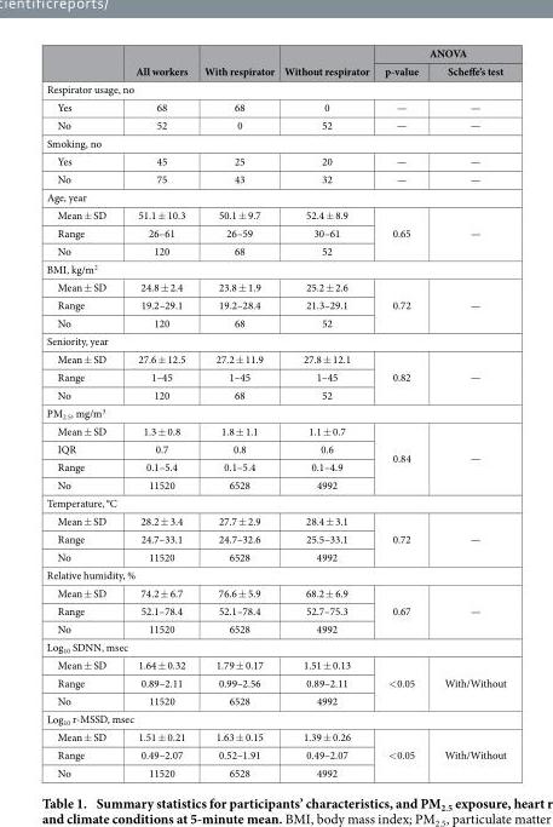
<table><thead><tr><td rowspan="2"></td><td rowspan="2">All workers</td><td rowspan="2">With respirator</td><td rowspan="2">Without respirator</td><td colspan="2">ANOVA</td></tr><tr><td>p-value</td><td>Scheffe’s test</td></tr></thead><tbody><tr><td colspan="6">Respirator usage, no</td></tr><tr><td>Yes</td><td>68</td><td>68</td><td>0</td><td>—</td><td>—</td></tr><tr><td>No</td><td>52</td><td>0</td><td>52</td><td>—</td><td>—</td></tr><tr><td colspan="6">Smoking, no</td></tr><tr><td>Yes</td><td>45</td><td>25</td><td>20</td><td>—</td><td>—</td></tr><tr><td>No</td><td>75</td><td>43</td><td>32</td><td>—</td><td>—</td></tr><tr><td colspan="6">Age, year</td></tr><tr><td>Mean ± SD</td><td>51.1 ± 10.3</td><td>50.1 ± 9.7</td><td>52.4 ± 8.9</td><td rowspan="3">0.65</td><td rowspan="3">—</td></tr><tr><td>Range</td><td>26–61</td><td>26–59</td><td>30–61</td></tr><tr><td>No</td><td>120</td><td>68</td><td>52</td></tr><tr><td colspan="6">BMI, kg/m<sup>2</sup></td></tr><tr><td>Mean ± SD</td><td>24.8 ± 2.4</td><td>23.8 ± 1.9</td><td>25.2 ± 2.6</td><td rowspan="3">0.72</td><td rowspan="3">—</td></tr><tr><td>Range</td><td>19.2–29.1</td><td>19.2–28.4</td><td>21.3–29.1</td></tr><tr><td>No</td><td>120</td><td>68</td><td>52</td></tr><tr><td colspan="6">Seniority, year</td></tr><tr><td>Mean ± SD</td><td>27.6 ± 12.5</td><td>27.2 ± 11.9</td><td>27.8 ± 12.1</td><td rowspan="3">0.82</td><td rowspan="3">—</td></tr><tr><td>Range</td><td>1–45</td><td>1–45</td><td>1–45</td></tr><tr><td>No</td><td>120</td><td>68</td><td>52</td></tr><tr><td colspan="6">PM<sub>2.5</sub>, mg/m<sup>3</sup></td></tr><tr><td>Mean ± SD</td><td>1.3 ± 0.8</td><td>1.8 ± 1.1</td><td>1.1 ± 0.7</td><td rowspan="3">0.84</td><td rowspan="3">—</td></tr><tr><td>IQR</td><td>0.7</td><td>0.8</td><td>0.6</td></tr><tr><td>Range</td><td>0.1–5.4</td><td>0.1–5.4</td><td>0.1–4.9</td></tr><tr><td>No</td><td>11520</td><td>6528</td><td>4992</td><td></td><td></td></tr><tr><td colspan="6">Temperature, °C</td></tr><tr><td>Mean ± SD</td><td>28.2 ± 3.4</td><td>27.7 ± 2.9</td><td>28.4 ± 3.1</td><td rowspan="3">0.72</td><td rowspan="3">—</td></tr><tr><td>Range</td><td>24.7–33.1</td><td>24.7–32.6</td><td>25.5–33.1</td></tr><tr><td>No</td><td>11520</td><td>6528</td><td>4992</td></tr><tr><td colspan="6">Relative humidity, %</td></tr><tr><td>Mean ± SD</td><td>74.2 ± 6.7</td><td>76.6 ± 5.9</td><td>68.2 ± 6.9</td><td rowspan="3">0.67</td><td rowspan="3">—</td></tr><tr><td>Range</td><td>52.1–78.4</td><td>52.1–78.4</td><td>52.7–75.3</td></tr><tr><td>No</td><td>11520</td><td>6528</td><td>4992</td></tr><tr><td colspan="6">Log<sub>10</sub> SDNN, msec</td></tr><tr><td>Mean ± SD</td><td>1.64 ± 0.32</td><td>1.79 ± 0.17</td><td>1.51 ± 0.13</td><td rowspan="3">&lt; 0.05</td><td rowspan="3">With/Without</td></tr><tr><td>Range</td><td>0.89–2.11</td><td>0.99–2.56</td><td>0.89–2.11</td></tr><tr><td>No</td><td>11520</td><td>6528</td><td>4992</td></tr><tr><td colspan="6">Log<sub>10</sub> r-MSSD, msec</td></tr><tr><td>Mean ± SD</td><td>1.51 ± 0.21</td><td>1.63 ± 0.15</td><td>1.39 ± 0.26</td><td rowspan="3">&lt; 0.05</td><td rowspan="3">With/Without</td></tr><tr><td>Range</td><td>0.49–2.07</td><td>0.52–1.91</td><td>0.49–2.07</td></tr><tr><td>No</td><td>11520</td><td>6528</td><td>4992</td></tr></tbody></table>